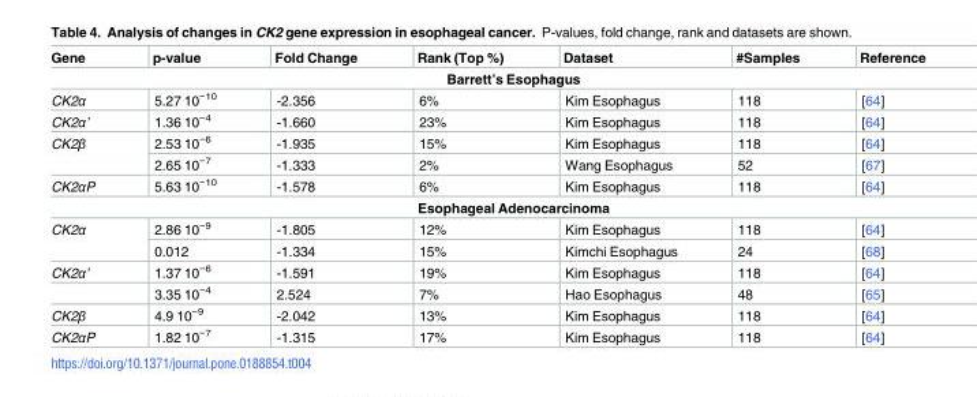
<table><thead><tr><td>Gene</td><td>p-value</td><td>Fold Change</td><td>Rank (Top %)</td><td>Dataset</td><td>#Samples</td><td>Reference</td></tr></thead><tbody><tr><td colspan="7">Barrett’s Esophagus</td></tr><tr><td>CK2α</td><td>5.27 10<sup>−10</sup></td><td>-2.356</td><td>6%</td><td>Kim Esophagus</td><td>118</td><td>[64]</td></tr><tr><td>CK2α’</td><td>1.36 10<sup>−4</sup></td><td>-1.660</td><td>23%</td><td>Kim Esophagus</td><td>118</td><td>[64]</td></tr><tr><td rowspan="2">CK2β</td><td>2.53 10<sup>−6</sup></td><td>-1.935</td><td>15%</td><td>Kim Esophagus</td><td>118</td><td>[64]</td></tr><tr><td>2.65 10<sup>−7</sup></td><td>-1.333</td><td>2%</td><td>Wang Esophagus</td><td>52</td><td>[67]</td></tr><tr><td>CK2αP</td><td>5.63 10<sup>−10</sup></td><td>-1.578</td><td>6%</td><td>Kim Esophagus</td><td>118</td><td>[64]</td></tr><tr><td colspan="7">Esophageal Adenocarcinoma</td></tr><tr><td rowspan="2">CK2α</td><td>2.86 10<sup>−9</sup></td><td>-1.805</td><td>12%</td><td>Kim Esophagus</td><td>118</td><td>[64]</td></tr><tr><td>0.012</td><td>-1.334</td><td>15%</td><td>Kimchi Esophagus</td><td>24</td><td>[68]</td></tr><tr><td rowspan="2">CK2α’</td><td>1.37 10<sup>−6</sup></td><td>-1.591</td><td>19%</td><td>Kim Esophagus</td><td>118</td><td>[64]</td></tr><tr><td>3.35 10<sup>−4</sup></td><td>2.524</td><td>7%</td><td>Hao Esophagus</td><td>48</td><td>[65]</td></tr><tr><td>CK2β</td><td>4.9 10<sup>−9</sup></td><td>-2.042</td><td>13%</td><td>Kim Esophagus</td><td>118</td><td>[64]</td></tr><tr><td>CK2αP</td><td>1.82 10<sup>−7</sup></td><td>-1.315</td><td>17%</td><td>Kim Esophagus</td><td>118</td><td>[64]</td></tr></tbody></table>